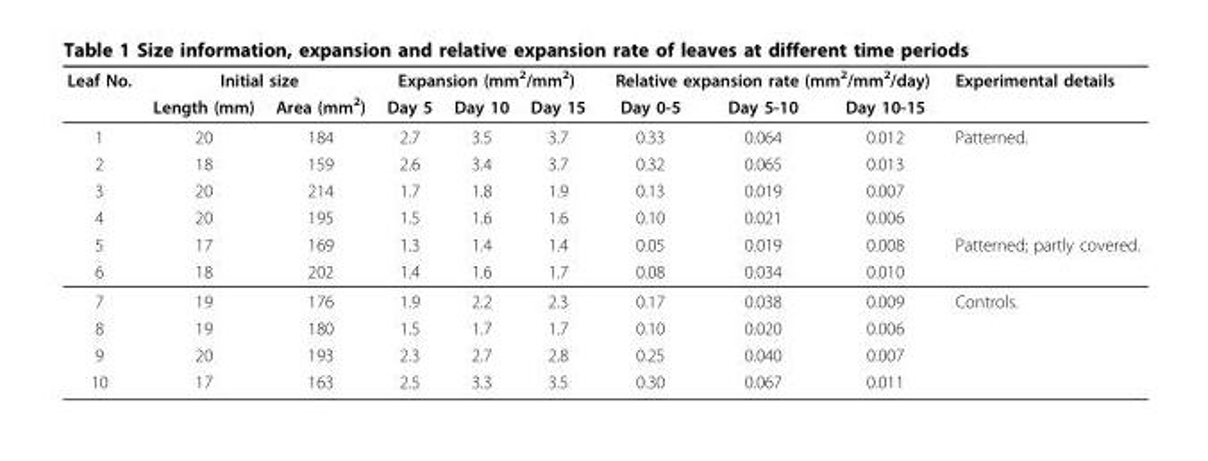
<table><thead><tr><td rowspan="2">Leaf No.</td><td colspan="2">Initial size</td><td colspan="3">Expansion (mm<sup>2</sup>/mm<sup>2</sup>)</td><td colspan="3">Relative expansion rate (mm<sup>2</sup>/mm<sup>2</sup>/day)</td><td rowspan="2">Experimental details</td></tr><tr><td>Length (mm)</td><td>Area (mm<sup>2</sup>)</td><td>Day 5</td><td>Day 10</td><td>Day 15</td><td>Day 0-5</td><td>Day 5-10</td><td>Day 10-15</td></tr></thead><tbody><tr><td>1</td><td>20</td><td>184</td><td>2.7</td><td>3.5</td><td>3.7</td><td>0.33</td><td>0.064</td><td>0.012</td><td>Patterned.</td></tr><tr><td>2</td><td>18</td><td>159</td><td>2.6</td><td>3.4</td><td>3.7</td><td>0.32</td><td>0.065</td><td>0.013</td><td></td></tr><tr><td>3</td><td>20</td><td>214</td><td>1.7</td><td>1.8</td><td>1.9</td><td>0.13</td><td>0.019</td><td>0.007</td><td></td></tr><tr><td>4</td><td>20</td><td>195</td><td>1.5</td><td>1.6</td><td>1.6</td><td>0.10</td><td>0.021</td><td>0.006</td><td></td></tr><tr><td>5</td><td>17</td><td>169</td><td>1.3</td><td>1.4</td><td>1.4</td><td>0.05</td><td>0.019</td><td>0.008</td><td>Patterned; partly covered.</td></tr><tr><td>6</td><td>18</td><td>202</td><td>1.4</td><td>1.6</td><td>1.7</td><td>0.08</td><td>0.034</td><td>0.010</td><td></td></tr><tr><td>7</td><td>19</td><td>176</td><td>1.9</td><td>2.2</td><td>2.3</td><td>0.17</td><td>0.038</td><td>0.009</td><td>Controls.</td></tr><tr><td>8</td><td>19</td><td>180</td><td>1.5</td><td>1.7</td><td>1.7</td><td>0.10</td><td>0.020</td><td>0.006</td><td></td></tr><tr><td>9</td><td>20</td><td>193</td><td>2.3</td><td>2.7</td><td>2.8</td><td>0.25</td><td>0.040</td><td>0.007</td><td></td></tr><tr><td>10</td><td>17</td><td>163</td><td>2.5</td><td>3.3</td><td>3.5</td><td>0.30</td><td>0.067</td><td>0.011</td><td></td></tr></tbody></table>